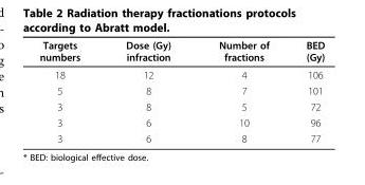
<table><thead><tr><td>Targets numbers</td><td>Dose (Gy) infraction</td><td>Number of fractions</td><td>BED (Gy)</td></tr></thead><tbody><tr><td>18</td><td>12</td><td>4</td><td>106</td></tr><tr><td>5</td><td>8</td><td>7</td><td>101</td></tr><tr><td>3</td><td>8</td><td>5</td><td>72</td></tr><tr><td>3</td><td>6</td><td>10</td><td>96</td></tr><tr><td>3</td><td>6</td><td>8</td><td>77</td></tr></tbody></table>